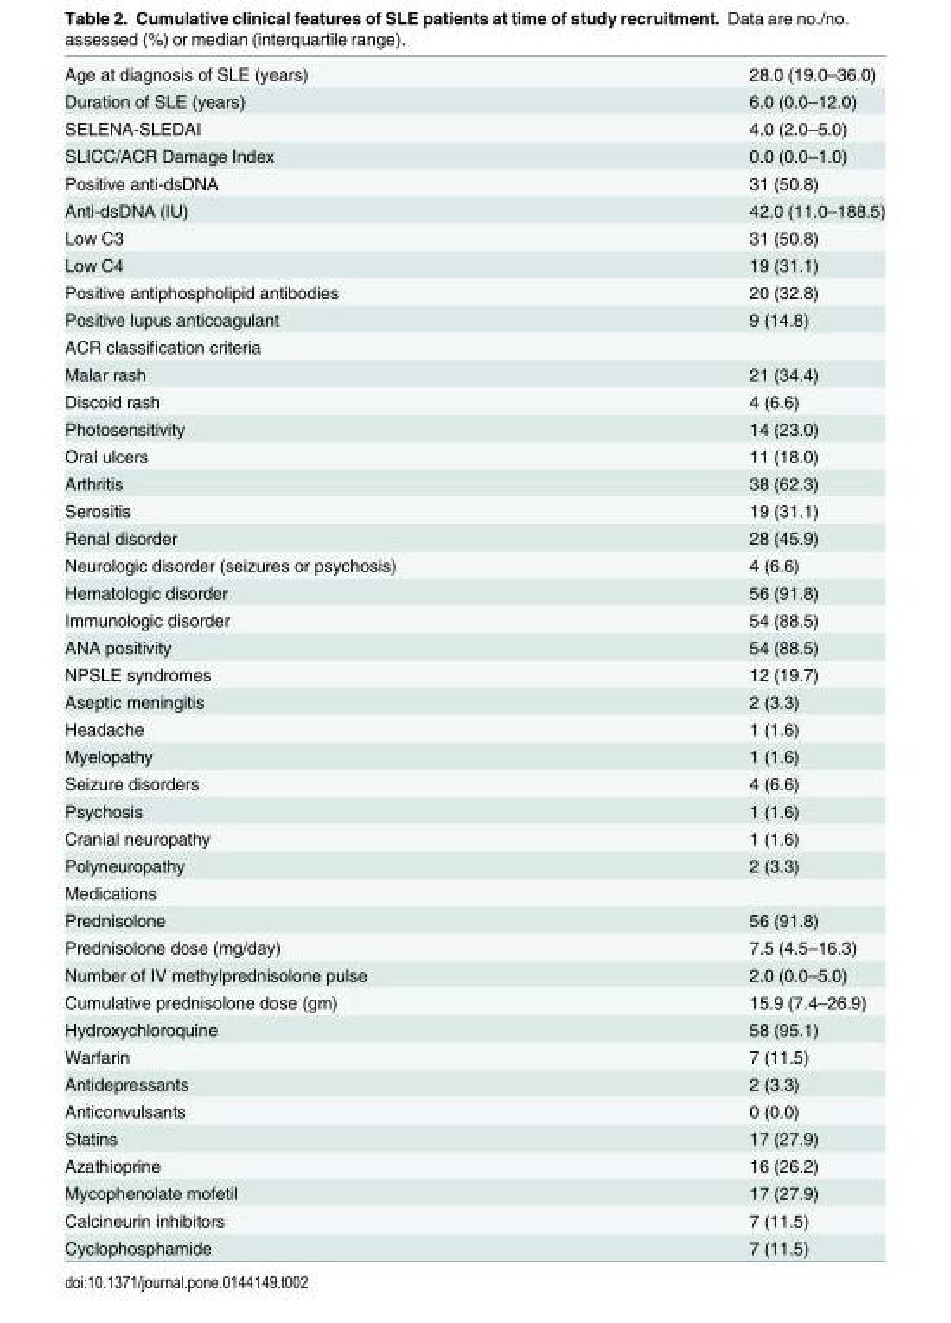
<table><tbody><tr><td>Age at diagnosis of SLE (years)</td><td>28.0 (19.0–36.0)</td></tr><tr><td>Duration of SLE (years)</td><td>6.0 (0.0–12.0)</td></tr><tr><td>SELENA-SLEDAI</td><td>4.0 (2.0–5.0)</td></tr><tr><td>SLICC/ACR Damage Index</td><td>0.0 (0.0–1.0)</td></tr><tr><td>Positive anti-dsDNA</td><td>31 (50.8)</td></tr><tr><td>Anti-dsDNA (IU)</td><td>42.0 (11.0–188.5)</td></tr><tr><td>Low C3</td><td>31 (50.8)</td></tr><tr><td>Low C4</td><td>19 (31.1)</td></tr><tr><td>Positive antiphospholipid antibodies</td><td>20 (32.8)</td></tr><tr><td>Positive lupus anticoagulant</td><td>9 (14.8)</td></tr><tr><td colspan="2">ACR classification criteria</td></tr><tr><td>Malar rash</td><td>21 (34.4)</td></tr><tr><td>Discoid rash</td><td>4 (6.6)</td></tr><tr><td>Photosensitivity</td><td>14 (23.0)</td></tr><tr><td>Oral ulcers</td><td>11 (18.0)</td></tr><tr><td>Arthritis</td><td>38 (62.3)</td></tr><tr><td>Serositis</td><td>19 (31.1)</td></tr><tr><td>Renal disorder</td><td>28 (45.9)</td></tr><tr><td>Neurologic disorder (seizures or psychosis)</td><td>4 (6.6)</td></tr><tr><td>Hematologic disorder</td><td>56 (91.8)</td></tr><tr><td>Immunologic disorder</td><td>54 (88.5)</td></tr><tr><td>ANA positivity</td><td>54 (88.5)</td></tr><tr><td>NPSLE syndromes</td><td>12 (19.7)</td></tr><tr><td>Aseptic meningitis</td><td>2 (3.3)</td></tr><tr><td>Headache</td><td>1 (1.6)</td></tr><tr><td>Myelopathy</td><td>1 (1.6)</td></tr><tr><td>Seizure disorders</td><td>4 (6.6)</td></tr><tr><td>Psychosis</td><td>1 (1.6)</td></tr><tr><td>Cranial neuropathy</td><td>1 (1.6)</td></tr><tr><td>Polyneuropathy</td><td>2 (3.3)</td></tr><tr><td colspan="2">Medications</td></tr><tr><td>Prednisolone</td><td>56 (91.8)</td></tr><tr><td>Prednisolone dose (mg/day)</td><td>7.5 (4.5–16.3)</td></tr><tr><td>Number of IV methylprednisolone pulse</td><td>2.0 (0.0–5.0)</td></tr><tr><td>Cumulative prednisolone dose (gm)</td><td>15.9 (7.4–26.9)</td></tr><tr><td>Hydroxychloroquine</td><td>58 (95.1)</td></tr><tr><td>Warfarin</td><td>7 (11.5)</td></tr><tr><td>Antidepressants</td><td>2 (3.3)</td></tr><tr><td>Anticonvulsants</td><td>0 (0.0)</td></tr><tr><td>Statins</td><td>17 (27.9)</td></tr><tr><td>Azathioprine</td><td>16 (26.2)</td></tr><tr><td>Mycophenolate mofetil</td><td>17 (27.9)</td></tr><tr><td>Calcineurin inhibitors</td><td>7 (11.5)</td></tr><tr><td>Cyclophosphamide</td><td>7 (11.5)</td></tr></tbody></table>